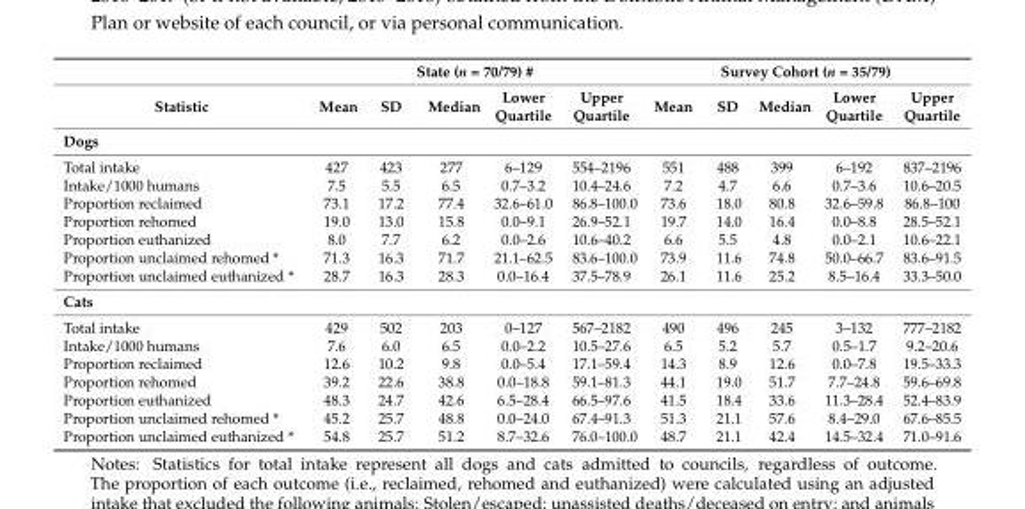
<table><thead><tr><td rowspan="2">Statistic</td><td colspan="5">State (n = 70/79) #</td><td colspan="5">Survey Cohort (n = 35/79)</td></tr><tr><td>Mean</td><td>SD</td><td>Median</td><td>Lower Quartile</td><td>Upper Quartile</td><td>Mean</td><td>SD</td><td>Median</td><td>Lower Quartile</td><td>Upper Quartile</td></tr></thead><tbody><tr><td colspan="11">Dogs</td></tr><tr><td>Total intake</td><td>427</td><td>423</td><td>277</td><td>6–129</td><td>554–2196</td><td>551</td><td>488</td><td>399</td><td>6–192</td><td>837–2196</td></tr><tr><td>Intake/1000 humans</td><td>7.5</td><td>5.5</td><td>6.5</td><td>0.7–3.2</td><td>10.4–24.6</td><td>7.2</td><td>4.7</td><td>6.6</td><td>0.7–3.6</td><td>10.6–20.5</td></tr><tr><td>Proportion reclaimed</td><td>73.1</td><td>17.2</td><td>77.4</td><td>32.6–61.0</td><td>86.8–100.0</td><td>73.6</td><td>18.0</td><td>80.8</td><td>32.6–59.8</td><td>86.8–100</td></tr><tr><td>Proportion rehomed</td><td>19.0</td><td>13.0</td><td>15.8</td><td>0.0–9.1</td><td>26.9–52.1</td><td>19.7</td><td>14.0</td><td>16.4</td><td>0.0–8.8</td><td>28.5–52.1</td></tr><tr><td>Proportion euthanized</td><td>8.0</td><td>7.7</td><td>6.2</td><td>0.0–2.6</td><td>10.6–40.2</td><td>6.6</td><td>5.5</td><td>4.8</td><td>0.0–2.1</td><td>10.6–22.1</td></tr><tr><td>Proportion unclaimed rehomed *</td><td>71.3</td><td>16.3</td><td>71.7</td><td>21.1–62.5</td><td>83.6–100.0</td><td>73.9</td><td>11.6</td><td>74.8</td><td>50.0–66.7</td><td>83.6–91.5</td></tr><tr><td>Proportion unclaimed euthanized *</td><td>28.7</td><td>16.3</td><td>28.3</td><td>0.0–16.4</td><td>37.5–78.9</td><td>26.1</td><td>11.6</td><td>25.2</td><td>8.5–16.4</td><td>33.3–50.0</td></tr><tr><td colspan="11">Cats</td></tr><tr><td>Total intake</td><td>429</td><td>502</td><td>203</td><td>0–127</td><td>567–2182</td><td>490</td><td>496</td><td>245</td><td>3–132</td><td>777–2182</td></tr><tr><td>Intake/1000 humans</td><td>7.6</td><td>6.0</td><td>6.5</td><td>0.0–2.2</td><td>10.5–27.6</td><td>6.5</td><td>5.2</td><td>5.7</td><td>0.5–1.7</td><td>9.2–20.6</td></tr><tr><td>Proportion reclaimed</td><td>12.6</td><td>10.2</td><td>9.8</td><td>0.0–5.4</td><td>17.1–59.4</td><td>14.3</td><td>8.9</td><td>12.6</td><td>0.0–7.8</td><td>19.5–33.3</td></tr><tr><td>Proportion rehomed</td><td>39.2</td><td>22.6</td><td>38.8</td><td>0.0–18.8</td><td>59.1–81.3</td><td>44.1</td><td>19.0</td><td>51.7</td><td>7.7–24.8</td><td>59.6–69.8</td></tr><tr><td>Proportion euthanized</td><td>48.3</td><td>24.7</td><td>42.6</td><td>6.5–28.4</td><td>66.5–97.6</td><td>41.5</td><td>18.4</td><td>33.6</td><td>11.3–28.4</td><td>52.4–83.9</td></tr><tr><td>Proportion unclaimed rehomed *</td><td>45.2</td><td>25.7</td><td>48.8</td><td>0.0–24.0</td><td>67.4–91.3</td><td>51.3</td><td>21.1</td><td>57.6</td><td>8.4–29.0</td><td>67.6–85.5</td></tr><tr><td>Proportion unclaimed euthanized *</td><td>54.8</td><td>25.7</td><td>51.2</td><td>8.7–32.6</td><td>76.0–100.0</td><td>48.7</td><td>21.1</td><td>42.4</td><td>14.5–32.4</td><td>71.0–91.6</td></tr></tbody></table>